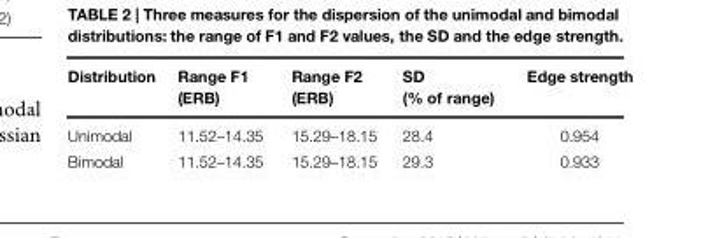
<table><thead><tr><td>Distribution</td><td>Range F1 (ERB)</td><td>Range F2 (ERB)</td><td>SD (% of range)</td><td>Edge strength</td></tr></thead><tbody><tr><td>Unimodal</td><td>11.52–14.35</td><td>15.29–18.15</td><td>28.4</td><td>0.954</td></tr><tr><td>Bimodal</td><td>11.52–14.35</td><td>15.29–18.15</td><td>29.3</td><td>0.933</td></tr></tbody></table>